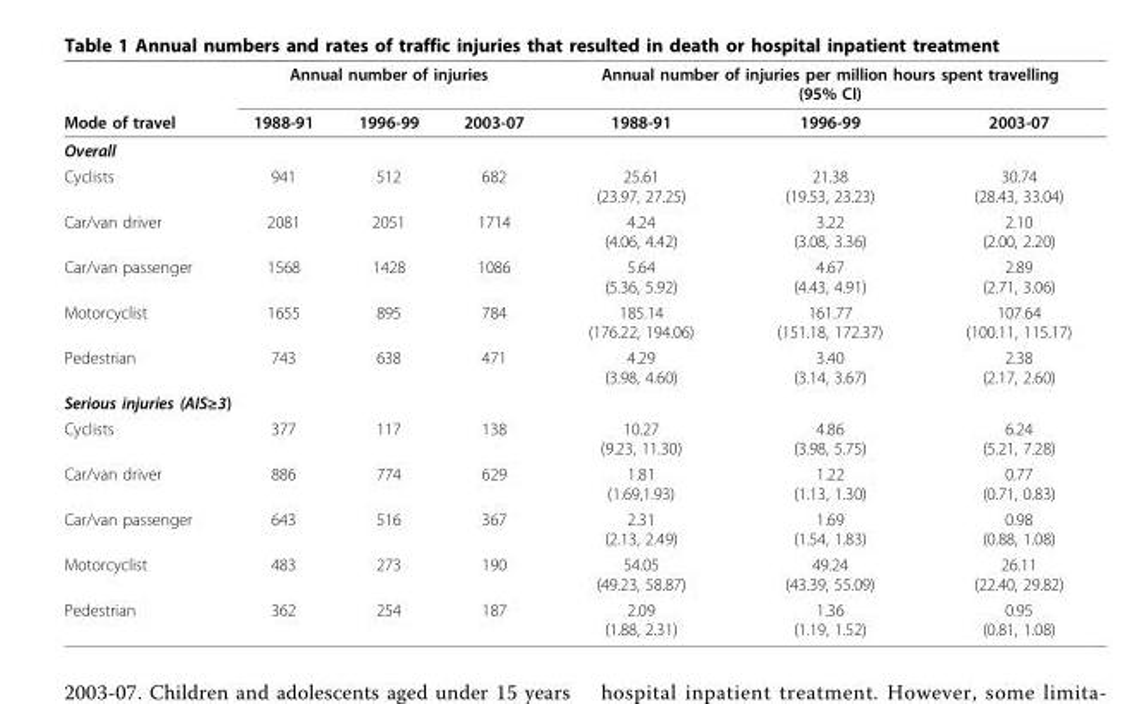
<table><thead><tr><td rowspan="2">Mode of travel</td><td colspan="3">Annual number of injuries</td><td colspan="3">Annual number of injuries per million hours spent travelling (95% CI)</td></tr><tr><td>1988-91</td><td>1996-99</td><td>2003-07</td><td>1988-91</td><td>1996-99</td><td>2003-07</td></tr></thead><tbody><tr><td colspan="7">Overall</td></tr><tr><td>Cyclists</td><td>941</td><td>512</td><td>682</td><td>25.61 (23.97, 27.25)</td><td>21.38 (19.53, 23.23)</td><td>30.74 (28.43, 33.04)</td></tr><tr><td>Car/van driver</td><td>2081</td><td>2051</td><td>1714</td><td>4.24 (4.06, 4.42)</td><td>3.22 (3.08, 3.36)</td><td>2.10 (2.00, 2.20)</td></tr><tr><td>Car/van passenger</td><td>1568</td><td>1428</td><td>1086</td><td>5.64 (5.36, 5.92)</td><td>4.67 (4.43, 4.91)</td><td>2.89 (2.71, 3.06)</td></tr><tr><td>Motorcyclist</td><td>1655</td><td>895</td><td>784</td><td>185.14 (176.22, 194.06)</td><td>161.77 (151.18, 172.37)</td><td>107.64 (100.11, 115.17)</td></tr><tr><td>Pedestrian</td><td>743</td><td>638</td><td>471</td><td>4.29 (3.98, 4.60)</td><td>3.40 (3.14, 3.67)</td><td>2.38 (2.17, 2.60)</td></tr><tr><td colspan="7">Serious injuries (AIS≥3)</td></tr><tr><td>Cyclists</td><td>377</td><td>117</td><td>138</td><td>10.27 (9.23, 11.30)</td><td>4.86 (3.98, 5.75)</td><td>6.24 (5.21, 7.28)</td></tr><tr><td>Car/van driver</td><td>886</td><td>774</td><td>629</td><td>1.81 (1.69,1.93)</td><td>1.22 (1.13, 1.30)</td><td>0.77 (0.71, 0.83)</td></tr><tr><td>Car/van passenger</td><td>643</td><td>516</td><td>367</td><td>2.31 (2.13, 2.49)</td><td>1.69 (1.54, 1.83)</td><td>0.98 (0.88, 1.08)</td></tr><tr><td>Motorcyclist</td><td>483</td><td>273</td><td>190</td><td>54.05 (49.23, 58.87)</td><td>49.24 (43.39, 55.09)</td><td>26.11 (22.40, 29.82)</td></tr><tr><td>Pedestrian</td><td>362</td><td>254</td><td>187</td><td>2.09 (1.88, 2.31)</td><td>1.36 (1.19, 1.52)</td><td>0.95 (0.81, 1.08)</td></tr></tbody></table>